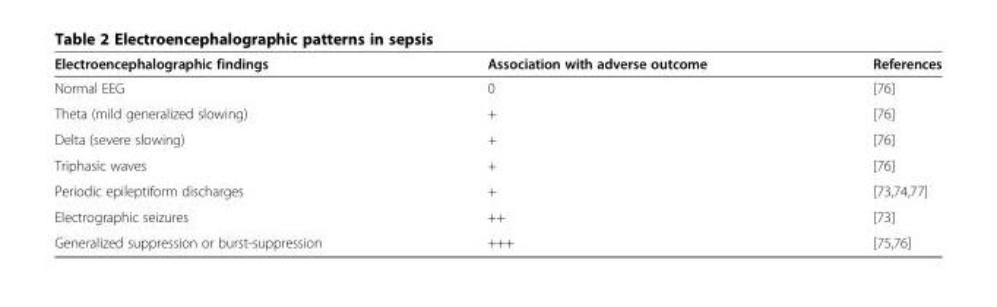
<table><thead><tr><td>Electroencephalographic findings</td><td>Association with adverse outcome</td><td>References</td></tr></thead><tbody><tr><td>Normal EEG</td><td>0</td><td>[76]</td></tr><tr><td>Theta (mild generalized slowing)</td><td>+</td><td>[76]</td></tr><tr><td>Delta (severe slowing)</td><td>+</td><td>[76]</td></tr><tr><td>Triphasic waves</td><td>+</td><td>[76]</td></tr><tr><td>Periodic epileptiform discharges</td><td>+</td><td>[73,74,77]</td></tr><tr><td>Electrographic seizures</td><td>++</td><td>[73]</td></tr><tr><td>Generalized suppression or burst-suppression</td><td>+++</td><td>[75,76]</td></tr></tbody></table>